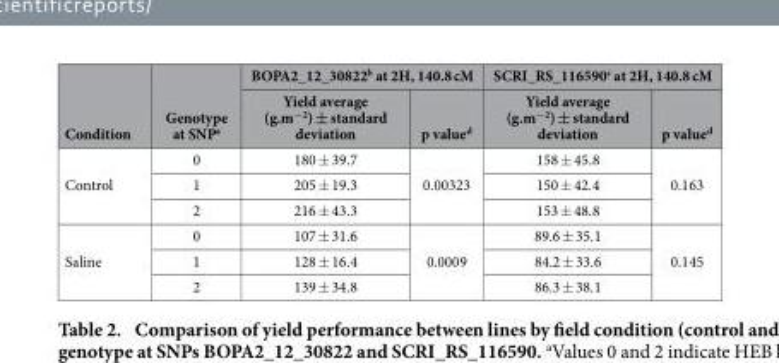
<table><thead><tr><td rowspan="2">Condition</td><td rowspan="2">Genotype at SNP<sup>a</sup></td><td colspan="2">BOPA2_12_30822<sup>b</sup> at 2H, 140.8 cM</td><td colspan="2">SCRI_RS_116590<sup>c</sup> at 2H, 140.8 cM</td></tr><tr><td>Yield average (g.m<sup>−2</sup>) ± standard deviation</td><td>p value<sup>d</sup></td><td>Yield average (g.m<sup>−2</sup>) ± standard deviation</td><td>p value<sup>d</sup></td></tr></thead><tbody><tr><td rowspan="3">Control</td><td>0</td><td>180 ± 39.7</td><td rowspan="3">0.00323</td><td>158 ± 45.8</td><td rowspan="3">0.163</td></tr><tr><td>1</td><td>205 ± 19.3</td><td>150 ± 42.4</td></tr><tr><td>2</td><td>216 ± 43.3</td><td>153 ± 48.8</td></tr><tr><td rowspan="3">Saline</td><td>0</td><td>107 ± 31.6</td><td rowspan="3">0.0009</td><td>89.6 ± 35.1</td><td rowspan="3">0.145</td></tr><tr><td>1</td><td>128 ± 16.4</td><td>84.2 ± 33.6</td></tr><tr><td>2</td><td>139 ± 34.8</td><td>86.3 ± 38.1</td></tr></tbody></table>